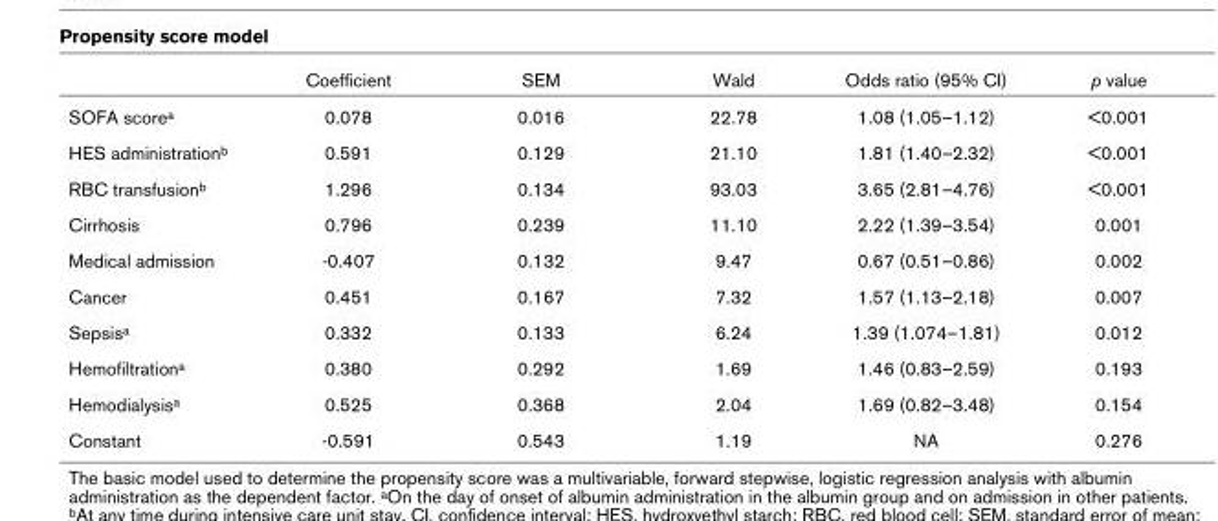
<table><thead><tr><td></td><td>Coefficient</td><td>SEM</td><td>Wald</td><td>Odds ratio (95% CI)</td><td>p value</td></tr></thead><tbody><tr><td>SOFA scorea</td><td>0.078</td><td>0.016</td><td>22.78</td><td>1.08 (1.05–1.12)</td><td>&lt;0.001</td></tr><tr><td>HES administrationb</td><td>0.591</td><td>0.129</td><td>21.10</td><td>1.81 (1.40–2.32)</td><td>&lt;0.001</td></tr><tr><td>RBC transfusionb</td><td>1.296</td><td>0.134</td><td>93.03</td><td>3.65 (2.81–4.76)</td><td>&lt;0.001</td></tr><tr><td>Cirrhosis</td><td>0.796</td><td>0.239</td><td>11.10</td><td>2.22 (1.39–3.54)</td><td>0.001</td></tr><tr><td>Medical admission</td><td>-0.407</td><td>0.132</td><td>9.47</td><td>0.67 (0.51–0.86)</td><td>0.002</td></tr><tr><td>Cancer</td><td>0.451</td><td>0.167</td><td>7.32</td><td>1.57 (1.13–2.18)</td><td>0.007</td></tr><tr><td>Sepsisa</td><td>0.332</td><td>0.133</td><td>6.24</td><td>1.39 (1.074–1.81)</td><td>0.012</td></tr><tr><td>Hemofiltrationa</td><td>0.380</td><td>0.292</td><td>1.69</td><td>1.46 (0.83–2.59)</td><td>0.193</td></tr><tr><td>Hemodialysisa</td><td>0.525</td><td>0.368</td><td>2.04</td><td>1.69 (0.82–3.48)</td><td>0.154</td></tr><tr><td>Constant</td><td>-0.591</td><td>0.543</td><td>1.19</td><td>NA</td><td>0.276</td></tr></tbody></table>